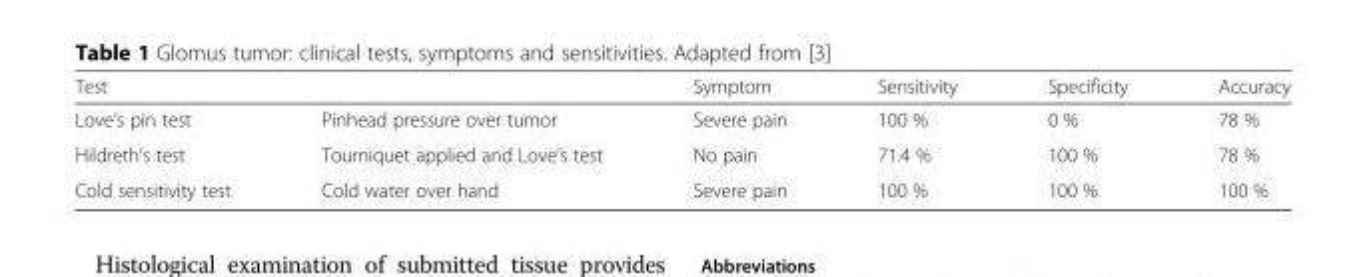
<table><thead><tr><td>Test</td><td></td><td>Symptom</td><td>Sensitivity</td><td>Specificity</td><td>Accuracy</td></tr></thead><tbody><tr><td>Love’s pin test</td><td>Pinhead pressure over tumor</td><td>Severe pain</td><td>100 %</td><td>0 %</td><td>78 %</td></tr><tr><td>Hildreth’s test</td><td>Tourniquet applied and Love’s test</td><td>No pain</td><td>71.4 %</td><td>100 %</td><td>78 %</td></tr><tr><td>Cold sensitivity test</td><td>Cold water over hand</td><td>Severe pain</td><td>100 %</td><td>100 %</td><td>100 %</td></tr></tbody></table>